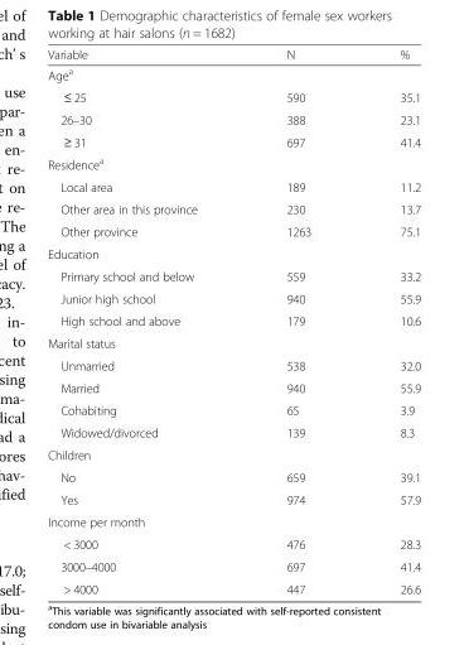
<table><thead><tr><td>Variable</td><td>N</td><td>%</td></tr></thead><tbody><tr><td colspan="3">Age<sup>a</sup></td></tr><tr><td>≤ 25</td><td>590</td><td>35.1</td></tr><tr><td>26–30</td><td>388</td><td>23.1</td></tr><tr><td>≥ 31</td><td>697</td><td>41.4</td></tr><tr><td colspan="3">Residence<sup>a</sup></td></tr><tr><td>Local area</td><td>189</td><td>11.2</td></tr><tr><td>Other area in this province</td><td>230</td><td>13.7</td></tr><tr><td>Other province</td><td>1263</td><td>75.1</td></tr><tr><td colspan="3">Education</td></tr><tr><td>Primary school and below</td><td>559</td><td>33.2</td></tr><tr><td>Junior high school</td><td>940</td><td>55.9</td></tr><tr><td>High school and above</td><td>179</td><td>10.6</td></tr><tr><td colspan="3">Marital status</td></tr><tr><td>Unmarried</td><td>538</td><td>32.0</td></tr><tr><td>Married</td><td>940</td><td>55.9</td></tr><tr><td>Cohabiting</td><td>65</td><td>3.9</td></tr><tr><td>Widowed/divorced</td><td>139</td><td>8.3</td></tr><tr><td colspan="3">Children</td></tr><tr><td>No</td><td>659</td><td>39.1</td></tr><tr><td>Yes</td><td>974</td><td>57.9</td></tr><tr><td colspan="3">Income per month</td></tr><tr><td>&lt; 3000</td><td>476</td><td>28.3</td></tr><tr><td>3000–4000</td><td>697</td><td>41.4</td></tr><tr><td>&gt; 4000</td><td>447</td><td>26.6</td></tr></tbody></table>